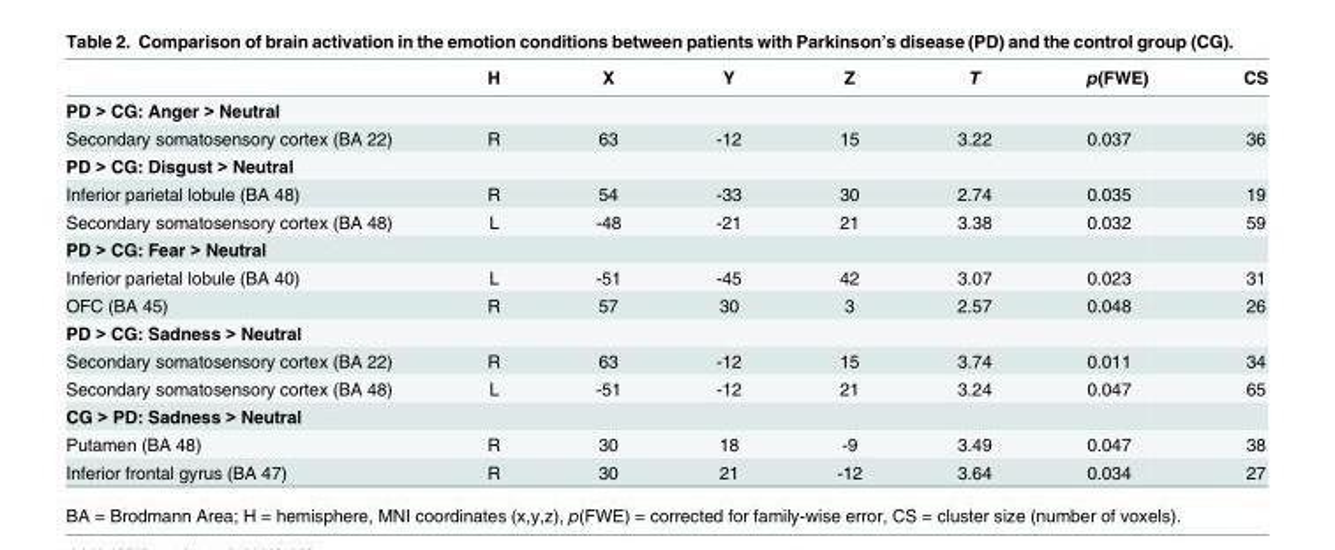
<table><thead><tr><td></td><td>H</td><td>X</td><td>Y</td><td>Z</td><td>T</td><td>p(FWE)</td><td>CS</td></tr></thead><tbody><tr><td colspan="8">PD &gt; CG: Anger &gt; Neutral</td></tr><tr><td>Secondary somatosensory cortex (BA 22)</td><td>R</td><td>63</td><td>-12</td><td>15</td><td>3.22</td><td>0.037</td><td>36</td></tr><tr><td colspan="8">PD &gt; CG: Disgust &gt; Neutral</td></tr><tr><td>Inferior parietal lobule (BA 48)</td><td>R</td><td>54</td><td>-33</td><td>30</td><td>2.74</td><td>0.035</td><td>19</td></tr><tr><td>Secondary somatosensory cortex (BA 48)</td><td>L</td><td>-48</td><td>-21</td><td>21</td><td>3.38</td><td>0.032</td><td>59</td></tr><tr><td colspan="8">PD &gt; CG: Fear &gt; Neutral</td></tr><tr><td>Inferior parietal lobule (BA 40)</td><td>L</td><td>-51</td><td>-45</td><td>42</td><td>3.07</td><td>0.023</td><td>31</td></tr><tr><td>OFC (BA 45)</td><td>R</td><td>57</td><td>30</td><td>3</td><td>2.57</td><td>0.048</td><td>26</td></tr><tr><td colspan="8">PD &gt; CG: Sadness &gt; Neutral</td></tr><tr><td>Secondary somatosensory cortex (BA 22)</td><td>R</td><td>63</td><td>-12</td><td>15</td><td>3.74</td><td>0.011</td><td>34</td></tr><tr><td>Secondary somatosensory cortex (BA 48)</td><td>L</td><td>-51</td><td>-12</td><td>21</td><td>3.24</td><td>0.047</td><td>65</td></tr><tr><td colspan="8">CG &gt; PD: Sadness &gt; Neutral</td></tr><tr><td>Putamen (BA 48)</td><td>R</td><td>30</td><td>18</td><td>-9</td><td>3.49</td><td>0.047</td><td>38</td></tr><tr><td>Inferior frontal gyrus (BA 47)</td><td>R</td><td>30</td><td>21</td><td>-12</td><td>3.64</td><td>0.034</td><td>27</td></tr></tbody></table>